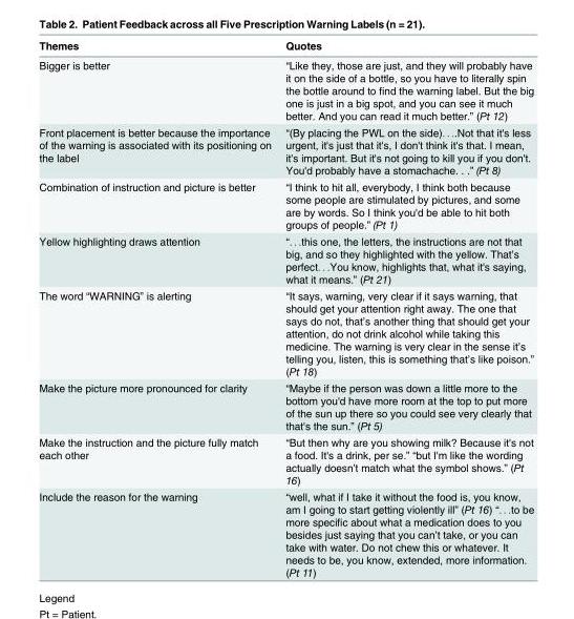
<table><thead><tr><td>Themes</td><td>Quotes</td></tr></thead><tbody><tr><td>Bigger is better</td><td>“Like they, those are just, and they will probably have it on the side of a bottle, so you have to literally spin the bottle around to find the warning label. But the big one is just in a big spot, and you can see it much better. And you can read it much better.” (Pt 12)</td></tr><tr><td>Front placement is better because the importance of the warning is associated with its positioning on the label</td><td>“(By placing the PWL on the side). . ..Not that it&#x27;s less urgent, it&#x27;s just that it&#x27;s, I don&#x27;t think it&#x27;s that. I mean, it&#x27;s important. But it&#x27;s not going to kill you if you don&#x27;t. You&#x27;d probably have a stomachache. . .” (Pt 8)</td></tr><tr><td>Combination of instruction and picture is better</td><td>“I think to hit all, everybody, I think both because some people are stimulated by pictures, and some are by words. So I think you&#x27;d be able to hit both groups of people.” (Pt 1)</td></tr><tr><td>Yellow highlighting draws attention</td><td>“. . .this one, the letters, the instructions are not that big, and so they highlighted with the yellow. That’s perfect. . .You know, highlights that, what it&#x27;s saying, what it means.” (Pt 21)</td></tr><tr><td>The word “WARNING” is alerting</td><td>“It says, warning, very clear if it says warning, that should get your attention right away. The one that says do not, that’s another thing that should get your attention, do not drink alcohol while taking this medicine. The warning is very clear in the sense it’s telling you, listen, this is something that’s like poison.” (Pt 18)</td></tr><tr><td>Make the picture more pronounced for clarity</td><td>“Maybe if the person was down a little more to the bottom you&#x27;d have more room at the top to put more of the sun up there so you could see very clearly that that&#x27;s the sun.” (Pt 5)</td></tr><tr><td>Make the instruction and the picture fully match each other</td><td>“But then why are you showing milk? Because it&#x27;s not a food. It&#x27;s a drink, per se.” “but I&#x27;m like the wording actually doesn’t match what the symbol shows.” (Pt 16)</td></tr><tr><td>Include the reason for the warning</td><td>“well, what if I take it without the food is, you know, am I going to start getting violently ill” (Pt 16) “. . .to be more specific about what a medication does to you besides just saying that you can’t take, or you can take with water. Do not chew this or whatever. It needs to be, you know, extended, more information. (Pt 11)</td></tr></tbody></table>